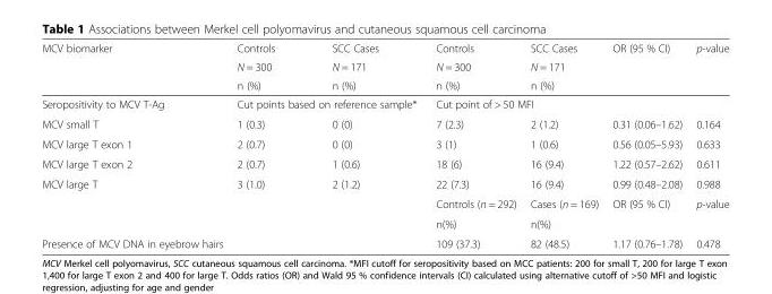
<table><thead><tr><td rowspan="3">MCV biomarker</td><td rowspan="3">Controls N = 300 n (%)</td><td rowspan="3">SCC Cases N = 171 n (%)</td><td rowspan="3">Controls N = 300 n (%)</td><td rowspan="3">SCC Cases N = 171 n (%)</td><td rowspan="3">OR (95 % CI)</td><td rowspan="3">p-value</td></tr><tr></tr><tr></tr></thead><tbody><tr><td>Seropositivity to MCV T-Ag</td><td colspan="2">Cut points based on reference sample*</td><td colspan="2">Cut point of &gt; 50 MFI</td><td></td><td></td></tr><tr><td>MCV small T</td><td>1 (0.3)</td><td>0 (0)</td><td>7 (2.3)</td><td>2 (1.2)</td><td>0.31 (0.06–1.62)</td><td>0.164</td></tr><tr><td>MCV large T exon 1</td><td>2 (0.7)</td><td>0 (0)</td><td>3 (1)</td><td>1 (0.6)</td><td>0.56 (0.05–5.93)</td><td>0.633</td></tr><tr><td>MCV large T exon 2</td><td>2 (0.7)</td><td>1 (0.6)</td><td>18 (6)</td><td>16 (9.4)</td><td>1.22 (0.57–2.62)</td><td>0.611</td></tr><tr><td rowspan="3">MCV large T</td><td>3 (1.0)</td><td>2 (1.2)</td><td>22 (7.3)</td><td>16 (9.4)</td><td>0.99 (0.48–2.08)</td><td>0.988</td></tr><tr><td rowspan="2"></td><td rowspan="2"></td><td>Controls (n = 292)</td><td>Cases (n = 169)</td><td rowspan="2">OR (95 % CI)</td><td rowspan="2">p-value</td></tr><tr><td>n(%)</td><td>n(%)</td></tr><tr><td>Presence of MCV DNA in eyebrow hairs</td><td></td><td></td><td>109 (37.3)</td><td>82 (48.5)</td><td>1.17 (0.76–1.78)</td><td>0.478</td></tr></tbody></table>